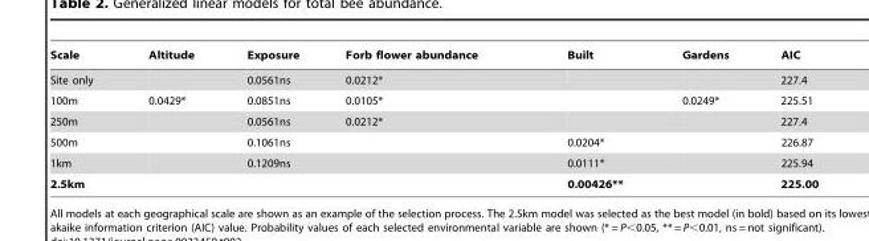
<table><thead><tr><td>Scale</td><td>Altitude</td><td>Exposure</td><td>Forb flower abundance</td><td>Built</td><td>Gardens</td><td>AIC</td></tr></thead><tbody><tr><td>Site only</td><td></td><td>0.0561ns</td><td>0.0212*</td><td></td><td></td><td>227.4</td></tr><tr><td>100m</td><td>0.0429*</td><td>0.0851ns</td><td>0.0105*</td><td></td><td>0.0249*</td><td>225.51</td></tr><tr><td>250m</td><td></td><td>0.0561ns</td><td>0.0212*</td><td></td><td></td><td>227.4</td></tr><tr><td>500m</td><td></td><td>0.1061ns</td><td></td><td>0.0204*</td><td></td><td>226.87</td></tr><tr><td>1km</td><td></td><td>0.1209ns</td><td></td><td>0.0111*</td><td></td><td>225.94</td></tr><tr><td>2.5km</td><td></td><td></td><td></td><td>0.00426**</td><td></td><td>225.00</td></tr></tbody></table>